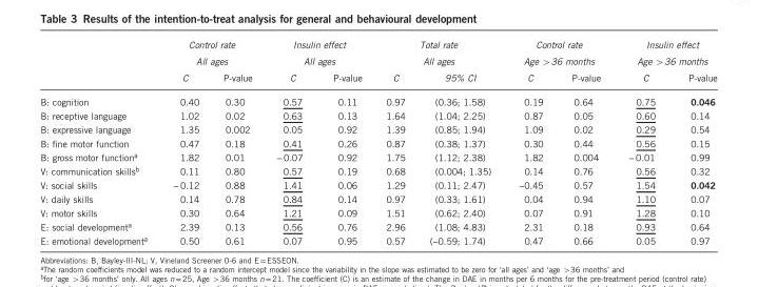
<table><thead><tr><td rowspan="3"></td><td rowspan="2" colspan="2">Control rate All ages</td><td rowspan="2" colspan="2">Insulin effect All ages</td><td rowspan="2" colspan="2">Total rate All ages</td><td rowspan="2" colspan="2">Control rate Age &gt;36 months</td><td rowspan="2" colspan="2">Insulin effect Age &gt;36 months</td></tr><tr></tr><tr><td>C</td><td>P-value</td><td>C</td><td>P-value</td><td>C</td><td>95% CI</td><td>C</td><td>P-value</td><td>C</td><td>P-value</td></tr></thead><tbody><tr><td>B: cognition</td><td>0.40</td><td>0.30</td><td>0.57</td><td>0.11</td><td>0.97</td><td>(0.36; 1.58)</td><td>0.19</td><td>0.64</td><td>0.75</td><td>0.046</td></tr><tr><td>B: receptive language</td><td>1.02</td><td>0.02</td><td>0.63</td><td>0.13</td><td>1.64</td><td>(1.04; 2.25)</td><td>0.87</td><td>0.05</td><td>0.60</td><td>0.14</td></tr><tr><td>B: expressive language</td><td>1.35</td><td>0.002</td><td>0.05</td><td>0.92</td><td>1.39</td><td>(0.85; 1.94)</td><td>1.09</td><td>0.02</td><td>0.29</td><td>0.54</td></tr><tr><td>B: fine motor function</td><td>0.47</td><td>0.18</td><td>0.41</td><td>0.26</td><td>0.87</td><td>(0.38; 1.37)</td><td>0.30</td><td>0.44</td><td>0.56</td><td>0.15</td></tr><tr><td>B: gross motor function<sup>a</sup></td><td>1.82</td><td>0.01</td><td>− 0.07</td><td>0.92</td><td>1.75</td><td>(1.12; 2.38)</td><td>1.82</td><td>0.004</td><td>− 0.01</td><td>0.99</td></tr><tr><td>V: communication skills<sup>b</sup></td><td>0.11</td><td>0.80</td><td>0.57</td><td>0.19</td><td>0.68</td><td>(0.004; 1.35)</td><td>0.14</td><td>0.76</td><td>0.56</td><td>0.32</td></tr><tr><td>V: social skills</td><td>− 0.12</td><td>0.88</td><td>1.41</td><td>0.06</td><td>1.29</td><td>(0.11; 2.47)</td><td>−0.45</td><td>0.57</td><td>1.54</td><td>0.042</td></tr><tr><td>V: daily skills</td><td>0.14</td><td>0.78</td><td>0.84</td><td>0.14</td><td>0.97</td><td>(0.33; 1.61)</td><td>0.04</td><td>0.94</td><td>1.10</td><td>0.07</td></tr><tr><td>V: motor skills</td><td>0.30</td><td>0.64</td><td>1.21</td><td>0.09</td><td>1.51</td><td>(0.62; 2.40)</td><td>0.07</td><td>0.91</td><td>1.28</td><td>0.10</td></tr><tr><td>E: social development<sup>a</sup></td><td>2.39</td><td>0.13</td><td>0.56</td><td>0.76</td><td>2.96</td><td>(1.08; 4.83)</td><td>2.31</td><td>0.18</td><td>0.93</td><td>0.64</td></tr><tr><td>E: emotional development<sup>a</sup></td><td>0.50</td><td>0.61</td><td>0.07</td><td>0.95</td><td>0.57</td><td>(−0.59; 1.74)</td><td>0.47</td><td>0.66</td><td>0.05</td><td>0.97</td></tr></tbody></table>